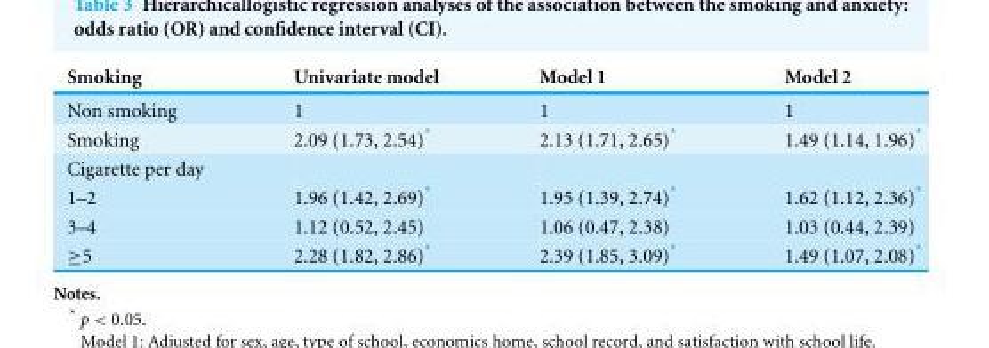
<table><thead><tr><td>Smoking</td><td>Univariate model</td><td>Model 1</td><td>Model 2</td></tr></thead><tbody><tr><td>Non smoking</td><td>1</td><td>1</td><td>1</td></tr><tr><td>Smoking</td><td>2.09 (1.73, 2.54)*</td><td>2.13 (1.71, 2.65)*</td><td>1.49 (1.14, 1.96)*</td></tr><tr><td colspan="4">Cigarette per day</td></tr><tr><td>1–2</td><td>1.96 (1.42, 2.69)*</td><td>1.95 (1.39, 2.74)*</td><td>1.62 (1.12, 2.36)*</td></tr><tr><td>3–4</td><td>1.12 (0.52, 2.45)</td><td>1.06 (0.47, 2.38)</td><td>1.03 (0.44, 2.39)</td></tr><tr><td>≥5</td><td>2.28 (1.82, 2.86)*</td><td>2.39 (1.85, 3.09)*</td><td>1.49 (1.07, 2.08)*</td></tr></tbody></table>